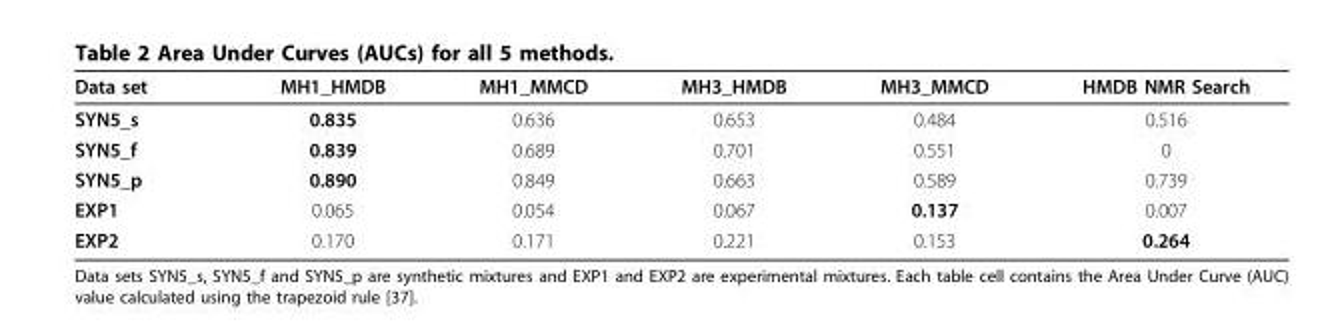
<table><thead><tr><td>Data set</td><td>MH1_HMDB</td><td>MH1_MMCD</td><td>MH3_HMDB</td><td>MH3_MMCD</td><td>HMDB NMR Search</td></tr></thead><tbody><tr><td>SYN5_s</td><td>0.835</td><td>0.636</td><td>0.653</td><td>0.484</td><td>0.516</td></tr><tr><td>SYN5_f</td><td>0.839</td><td>0.689</td><td>0.701</td><td>0.551</td><td>0</td></tr><tr><td>SYN5_p</td><td>0.890</td><td>0.849</td><td>0.663</td><td>0.589</td><td>0.739</td></tr><tr><td>EXP1</td><td>0.065</td><td>0.054</td><td>0.067</td><td>0.137</td><td>0.007</td></tr><tr><td>EXP2</td><td>0.170</td><td>0.171</td><td>0.221</td><td>0.153</td><td>0.264</td></tr></tbody></table>